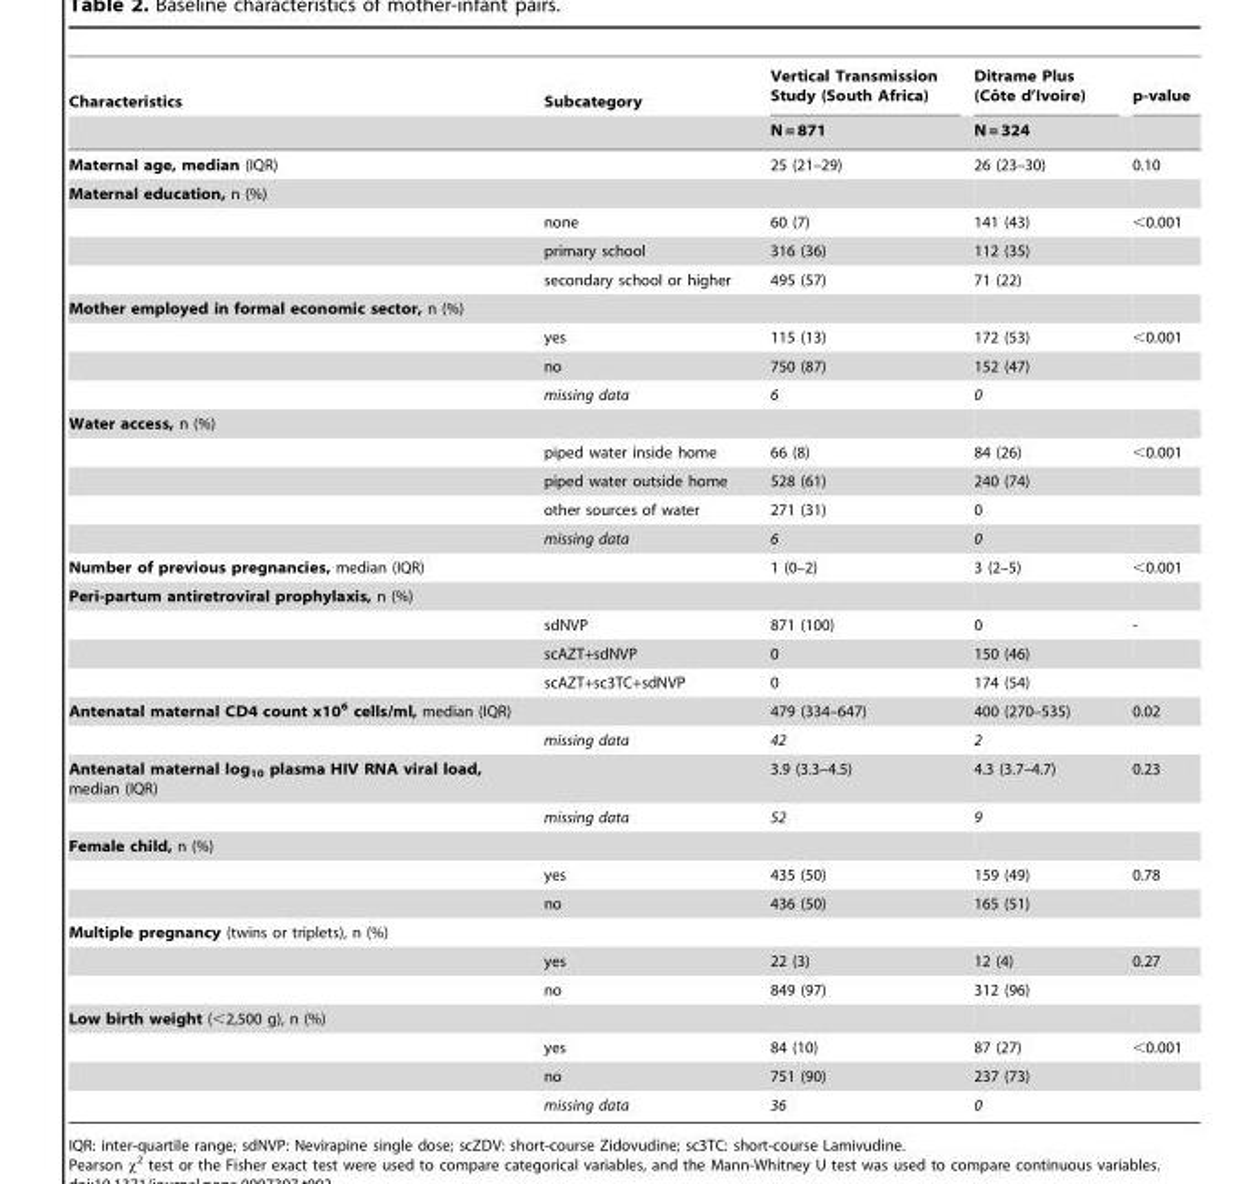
<table><thead><tr><td rowspan="2">Characteristics</td><td rowspan="2">Subcategory</td><td rowspan="2">Vertical Transmission Study (South Africa) N = 871</td><td rowspan="2">Ditrame Plus (Coˆ te d’Ivoire) N = 324</td><td rowspan="2">p-value</td></tr><tr></tr></thead><tbody><tr><td>Maternal age, median (IQR)</td><td></td><td>25 (21–29)</td><td>26 (23–30)</td><td>0.10</td></tr><tr><td colspan="5">Maternal education, n (%)</td></tr><tr><td></td><td>none</td><td>60 (7)</td><td>141 (43)</td><td>&lt;0.001</td></tr><tr><td></td><td>primary school</td><td>316 (36)</td><td>112 (35)</td><td></td></tr><tr><td></td><td>secondary school or higher</td><td>495 (57)</td><td>71 (22)</td><td></td></tr><tr><td colspan="5">Mother employed in formal economic sector, n (%)</td></tr><tr><td></td><td>yes</td><td>115 (13)</td><td>172 (53)</td><td>&lt;0.001</td></tr><tr><td></td><td>no</td><td>750 (87)</td><td>152 (47)</td><td></td></tr><tr><td></td><td>missing data</td><td>6</td><td>0</td><td></td></tr><tr><td colspan="5">Water access, n (%)</td></tr><tr><td></td><td>piped water inside home</td><td>66 (8)</td><td>84 (26)</td><td>&lt;0.001</td></tr><tr><td></td><td>piped water outside home</td><td>528 (61)</td><td>240 (74)</td><td></td></tr><tr><td></td><td>other sources of water</td><td>271 (31)</td><td>0</td><td></td></tr><tr><td></td><td>missing data</td><td>6</td><td>0</td><td></td></tr><tr><td>Number of previous pregnancies, median (IQR)</td><td></td><td>1 (0–2)</td><td>3 (2–5)</td><td>&lt;0.001</td></tr><tr><td colspan="5">Peri-partum antiretroviral prophylaxis, n (%)</td></tr><tr><td></td><td>sdNVP</td><td>871 (100)</td><td>0</td><td>-</td></tr><tr><td></td><td>scAZT+sdNVP</td><td>0</td><td>150 (46)</td><td></td></tr><tr><td></td><td>scAZT+sc3TC+sdNVP</td><td>0</td><td>174 (54)</td><td></td></tr><tr><td rowspan="2">Antenatal maternal CD4 count x10<sup>6</sup> cells/ml, median (IQR)</td><td></td><td>479 (334–647)</td><td>400 (270–535)</td><td>0.02</td></tr><tr><td>missing data</td><td>42</td><td>2</td><td></td></tr><tr><td rowspan="2">Antenatal maternal log<sub>10</sub> plasma HIV RNA viral load, median (IQR)</td><td></td><td>3.9 (3.3–4.5)</td><td>4.3 (3.7–4.7)</td><td>0.23</td></tr><tr><td>missing data</td><td>52</td><td>9</td><td></td></tr><tr><td colspan="5">Female child, n (%)</td></tr><tr><td></td><td>yes</td><td>435 (50)</td><td>159 (49)</td><td>0.78</td></tr><tr><td></td><td>no</td><td>436 (50)</td><td>165 (51)</td><td></td></tr><tr><td colspan="5">Multiple pregnancy (twins or triplets), n (%)</td></tr><tr><td></td><td>yes</td><td>22 (3)</td><td>12 (4)</td><td>0.27</td></tr><tr><td></td><td>no</td><td>849 (97)</td><td>312 (96)</td><td></td></tr><tr><td colspan="5">Low birth weight (&lt;2,500 g), n (%)</td></tr><tr><td></td><td>yes</td><td>84 (10)</td><td>87 (27)</td><td>&lt;0.001</td></tr><tr><td></td><td>no</td><td>751 (90)</td><td>237 (73)</td><td></td></tr><tr><td></td><td>missing data</td><td>36</td><td>0</td><td></td></tr></tbody></table>